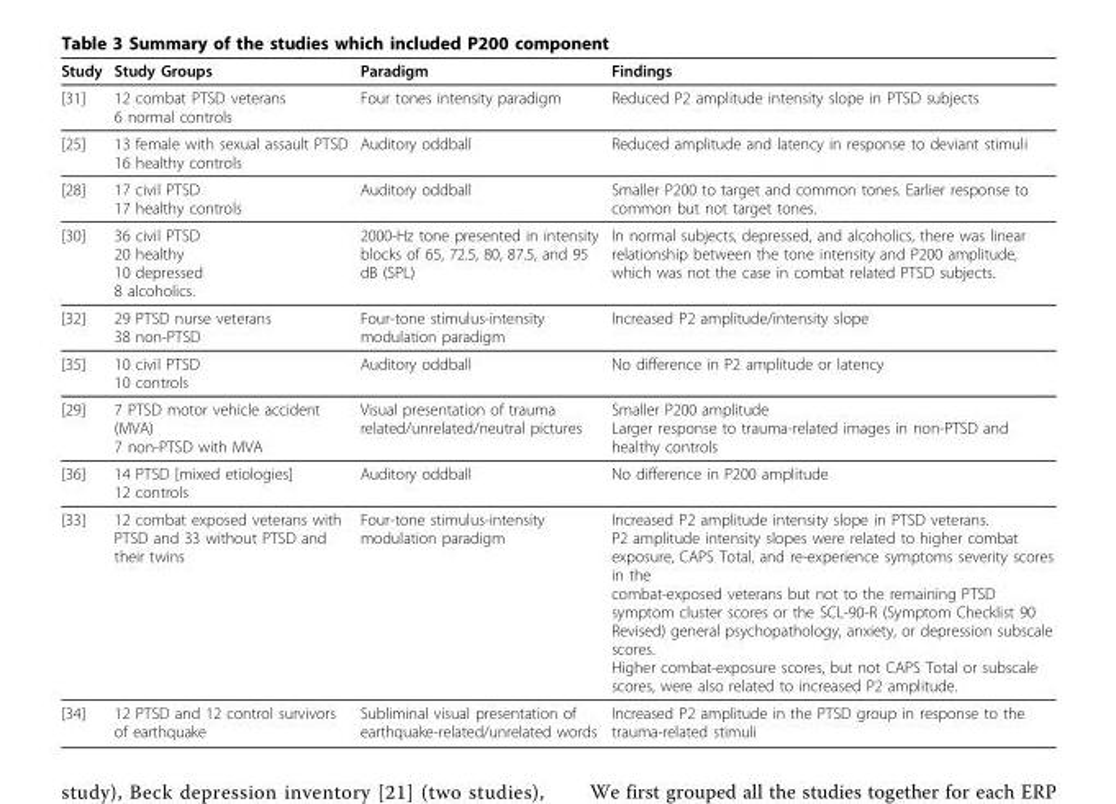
<table><thead><tr><td>Study</td><td>Study Groups</td><td>Paradigm</td><td>Findings</td></tr></thead><tbody><tr><td>[31]</td><td>12 combat PTSD veterans 6 normal controls</td><td>Four tones intensity paradigm</td><td>Reduced P2 amplitude intensity slope in PTSD subjects</td></tr><tr><td>[25]</td><td>13 female with sexual assault PTSD 16 healthy controls</td><td>Auditory oddball</td><td>Reduced amplitude and latency in response to deviant stimuli</td></tr><tr><td>[28]</td><td>17 civil PTSD 17 healthy controls</td><td>Auditory oddball</td><td>Smaller P200 to target and common tones. Earlier response to common but not target tones.</td></tr><tr><td>[30]</td><td>36 civil PTSD 20 healthy 10 depressed 8 alcoholics.</td><td>2000-Hz tone presented in intensity blocks of 65, 72.5, 80, 87.5, and 95 dB (SPL)</td><td>In normal subjects, depressed, and alcoholics, there was linear relationship between the tone intensity and P200 amplitude, which was not the case in combat related PTSD subjects.</td></tr><tr><td>[32]</td><td>29 PTSD nurse veterans 38 non-PTSD</td><td>Four-tone stimulus-intensity modulation paradigm</td><td>Increased P2 amplitude/intensity slope</td></tr><tr><td>[35]</td><td>10 civil PTSD 10 controls</td><td>Auditory oddball</td><td>No difference in P2 amplitude or latency</td></tr><tr><td>[29]</td><td>7 PTSD motor vehicle accident (MVA) 7 non-PTSD with MVA</td><td>Visual presentation of trauma related/unrelated/neutral pictures</td><td>Smaller P200 amplitude Larger response to trauma-related images in non-PTSD and healthy controls</td></tr><tr><td>[36]</td><td>14 PTSD [mixed etiologies] 12 controls</td><td>Auditory oddball</td><td>No difference in P200 amplitude</td></tr><tr><td>[33]</td><td>12 combat exposed veterans with PTSD and 33 without PTSD and their twins</td><td>Four-tone stimulus-intensity modulation paradigm</td><td>Increased P2 amplitude intensity slope in PTSD veterans. P2 amplitude intensity slopes were related to higher combat exposure, CAPS Total, and re-experience symptoms severity scores in the combat-exposed veterans but not to the remaining PTSD symptom cluster scores or the SCL-90-R (Symptom Checklist 90 Revised) general psychopathology, anxiety, or depression subscale scores. Higher combat-exposure scores, but not CAPS Total or subscale scores, were also related to increased P2 amplitude.</td></tr><tr><td>[34]</td><td>12 PTSD and 12 control survivors of earthquake</td><td>Subliminal visual presentation of earthquake-related/unrelated words</td><td>Increased P2 amplitude in the PTSD group in response to the trauma-related stimuli</td></tr></tbody></table>